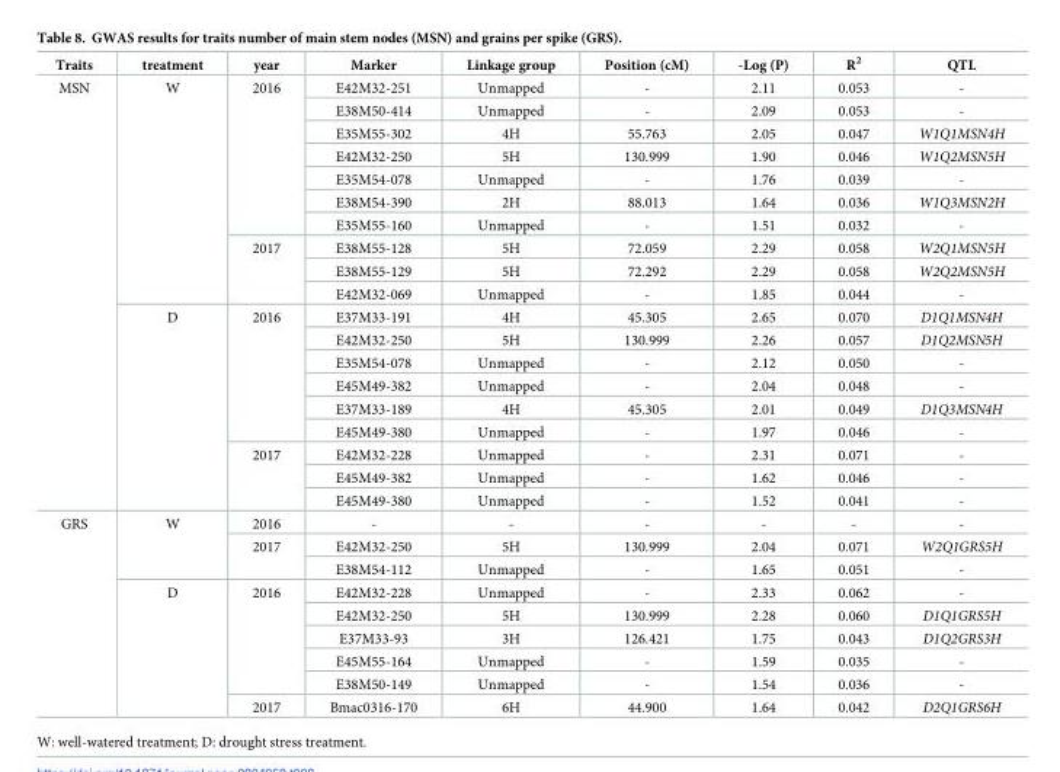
<table><thead><tr><td>Traits</td><td>treatment</td><td>year</td><td>Marker</td><td>Linkage group</td><td>Position (cM)</td><td>-Log (P)</td><td>R<sup>2</sup></td><td>QTL</td></tr></thead><tbody><tr><td rowspan="19">MSN</td><td rowspan="10">W</td><td rowspan="7">2016</td><td>E42M32-251</td><td>Unmapped</td><td>-</td><td>2.11</td><td>0.053</td><td>-</td></tr><tr><td>E38M50-414</td><td>Unmapped</td><td>-</td><td>2.09</td><td>0.053</td><td>-</td></tr><tr><td>E35M55-302</td><td>4H</td><td>55.763</td><td>2.05</td><td>0.047</td><td>W1Q1MSN4H</td></tr><tr><td>E42M32-250</td><td>5H</td><td>130.999</td><td>1.90</td><td>0.046</td><td>W1Q2MSN5H</td></tr><tr><td>E35M54-078</td><td>Unmapped</td><td>-</td><td>1.76</td><td>0.039</td><td>-</td></tr><tr><td>E38M54-390</td><td>2H</td><td>88.013</td><td>1.64</td><td>0.036</td><td>W1Q3MSN2H</td></tr><tr><td>E35M55-160</td><td>Unmapped</td><td>-</td><td>1.51</td><td>0.032</td><td>-</td></tr><tr><td rowspan="3">2017</td><td>E38M55-128</td><td>5H</td><td>72.059</td><td>2.29</td><td>0.058</td><td>W2Q1MSN5H</td></tr><tr><td>E38M55-129</td><td>5H</td><td>72.292</td><td>2.29</td><td>0.058</td><td>W2Q2MSN5H</td></tr><tr><td>E42M32-069</td><td>Unmapped</td><td>-</td><td>1.85</td><td>0.044</td><td>-</td></tr><tr><td rowspan="9">D</td><td rowspan="6">2016</td><td>E37M33-191</td><td>4H</td><td>45.305</td><td>2.65</td><td>0.070</td><td>D1Q1MSN4H</td></tr><tr><td>E42M32-250</td><td>5H</td><td>130.999</td><td>2.26</td><td>0.057</td><td>D1Q2MSN5H</td></tr><tr><td>E35M54-078</td><td>Unmapped</td><td>-</td><td>2.12</td><td>0.050</td><td>-</td></tr><tr><td>E45M49-382</td><td>Unmapped</td><td>-</td><td>2.04</td><td>0.048</td><td>-</td></tr><tr><td>E37M33-189</td><td>4H</td><td>45.305</td><td>2.01</td><td>0.049</td><td>D1Q3MSN4H</td></tr><tr><td>E45M49-380</td><td>Unmapped</td><td>-</td><td>1.97</td><td>0.046</td><td>-</td></tr><tr><td rowspan="3">2017</td><td>E42M32-228</td><td>Unmapped</td><td>-</td><td>2.31</td><td>0.071</td><td>-</td></tr><tr><td>E45M49-382</td><td>Unmapped</td><td>-</td><td>1.62</td><td>0.046</td><td>-</td></tr><tr><td>E45M49-380</td><td>Unmapped</td><td>-</td><td>1.52</td><td>0.041</td><td>-</td></tr><tr><td rowspan="9">GRS</td><td rowspan="3">W</td><td>2016</td><td>-</td><td>-</td><td>-</td><td>-</td><td>-</td><td>-</td></tr><tr><td rowspan="2">2017</td><td>E42M32-250</td><td>5H</td><td>130.999</td><td>2.04</td><td>0.071</td><td>W2Q1GRS5H</td></tr><tr><td>E38M54-112</td><td>Unmapped</td><td>-</td><td>1.65</td><td>0.051</td><td>-</td></tr><tr><td rowspan="6">D</td><td rowspan="5">2016</td><td>E42M32-228</td><td>Unmapped</td><td>-</td><td>2.33</td><td>0.062</td><td>-</td></tr><tr><td>E42M32-250</td><td>5H</td><td>130.999</td><td>2.28</td><td>0.060</td><td>D1Q1GRS5H</td></tr><tr><td>E37M33-93</td><td>3H</td><td>126.421</td><td>1.75</td><td>0.043</td><td>D1Q2GRS3H</td></tr><tr><td>E45M55-164</td><td>Unmapped</td><td>-</td><td>1.59</td><td>0.035</td><td>-</td></tr><tr><td>E38M50-149</td><td>Unmapped</td><td>-</td><td>1.54</td><td>0.036</td><td>-</td></tr><tr><td>2017</td><td>Bmac0316-170</td><td>6H</td><td>44.900</td><td>1.64</td><td>0.042</td><td>D2Q1GRS6H</td></tr></tbody></table>